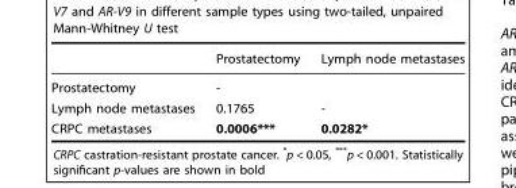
<table><thead><tr><td></td><td>Prostatectomy</td><td>Lymph node metastases</td></tr></thead><tbody><tr><td>Prostatectomy</td><td>-</td><td></td></tr><tr><td>Lymph node metastases</td><td>0.1765</td><td>-</td></tr><tr><td>CRPC metastases</td><td>0.0006***</td><td>0.0282*</td></tr></tbody></table>